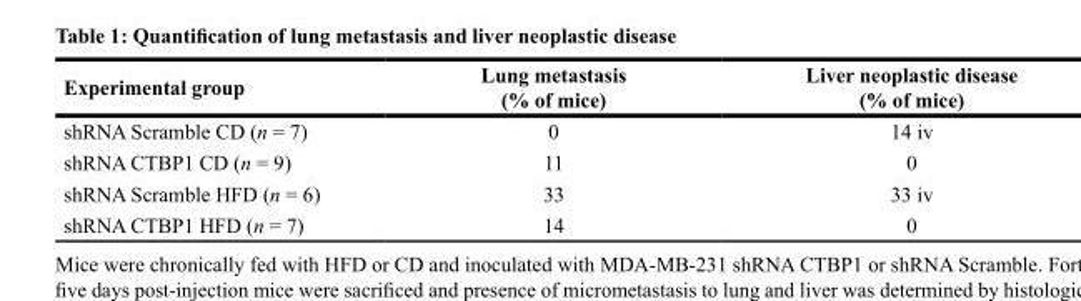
<table><thead><tr><td>Experimental group</td><td>Lung metastasis (% of mice)</td><td>Liver neoplastic disease (% of mice)</td></tr></thead><tbody><tr><td>shRNA Scramble CD (n = 7)</td><td>0</td><td>14 iv</td></tr><tr><td>shRNA CTBP1 CD (n = 9)</td><td>11</td><td>0</td></tr><tr><td>shRNA Scramble HFD (n = 6)</td><td>33</td><td>33 iv</td></tr><tr><td>shRNA CTBP1 HFD (n = 7)</td><td>14</td><td>0</td></tr></tbody></table>